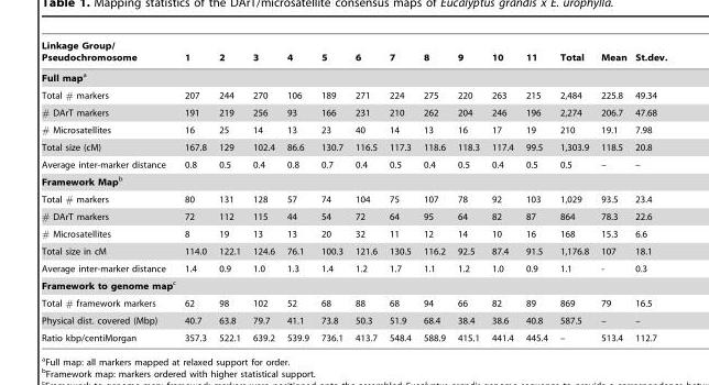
<table><thead><tr><td>Linkage Group/ Pseudochromosome</td><td>1</td><td>2</td><td>3</td><td>4</td><td>5</td><td>6</td><td>7</td><td>8</td><td>9</td><td>10</td><td>11</td><td>Total</td><td>Mean</td><td>St.dev.</td></tr></thead><tbody><tr><td colspan="15">Full mapa</td></tr><tr><td>Total # markers</td><td>207</td><td>244</td><td>270</td><td>106</td><td>189</td><td>271</td><td>224</td><td>275</td><td>220</td><td>263</td><td>215</td><td>2,484</td><td>225.8</td><td>49.34</td></tr><tr><td># DArT markers</td><td>191</td><td>219</td><td>256</td><td>93</td><td>166</td><td>231</td><td>210</td><td>262</td><td>204</td><td>246</td><td>196</td><td>2,274</td><td>206.7</td><td>47.68</td></tr><tr><td># Microsatellites</td><td>16</td><td>25</td><td>14</td><td>13</td><td>23</td><td>40</td><td>14</td><td>13</td><td>16</td><td>17</td><td>19</td><td>210</td><td>19.1</td><td>7.98</td></tr><tr><td>Total size (cM)</td><td>167.8</td><td>129</td><td>102.4</td><td>86.6</td><td>130.7</td><td>116.5</td><td>117.3</td><td>118.6</td><td>118.3</td><td>117.4</td><td>99.5</td><td>1,303.9</td><td>118.5</td><td>20.8</td></tr><tr><td>Average inter-marker distance</td><td>0.8</td><td>0.5</td><td>0.4</td><td>0.8</td><td>0.7</td><td>0.4</td><td>0.5</td><td>0.4</td><td>0.5</td><td>0.4</td><td>0.5</td><td>0.5</td><td>–</td><td>–</td></tr><tr><td colspan="15">Framework Mapb</td></tr><tr><td>Total # markers</td><td>80</td><td>131</td><td>128</td><td>57</td><td>74</td><td>104</td><td>75</td><td>107</td><td>78</td><td>92</td><td>103</td><td>1,029</td><td>93.5</td><td>23.4</td></tr><tr><td># DArT markers</td><td>72</td><td>112</td><td>115</td><td>44</td><td>54</td><td>72</td><td>64</td><td>95</td><td>64</td><td>82</td><td>87</td><td>864</td><td>78.3</td><td>22.6</td></tr><tr><td># Microsatellites</td><td>8</td><td>19</td><td>13</td><td>13</td><td>20</td><td>32</td><td>11</td><td>12</td><td>14</td><td>10</td><td>16</td><td>168</td><td>15.3</td><td>6.6</td></tr><tr><td>Total size in cM</td><td>114.0</td><td>122.1</td><td>124.6</td><td>76.1</td><td>100.3</td><td>121.6</td><td>130.5</td><td>116.2</td><td>92.5</td><td>87.4</td><td>91.5</td><td>1,176.8</td><td>107</td><td>18.1</td></tr><tr><td>Average inter-marker distance</td><td>1.4</td><td>0.9</td><td>1.0</td><td>1.3</td><td>1.4</td><td>1.2</td><td>1.7</td><td>1.1</td><td>1.2</td><td>1.0</td><td>0.9</td><td>1.1</td><td>-</td><td>0.3</td></tr><tr><td colspan="15">Framework to genome mapc</td></tr><tr><td>Total # framework markers</td><td>62</td><td>98</td><td>102</td><td>52</td><td>68</td><td>88</td><td>68</td><td>94</td><td>66</td><td>82</td><td>89</td><td>869</td><td>79</td><td>16.5</td></tr><tr><td>Physical dist. covered (Mbp)</td><td>40.7</td><td>63.8</td><td>79.7</td><td>41.1</td><td>73.8</td><td>50.3</td><td>51.9</td><td>68.4</td><td>38.4</td><td>38.6</td><td>40.8</td><td>587.5</td><td>–</td><td>–</td></tr><tr><td>Ratio kbp/centiMorgan</td><td>357.3</td><td>522.1</td><td>639.2</td><td>539.9</td><td>736.1</td><td>413.7</td><td>548.4</td><td>588.9</td><td>415.1</td><td>441.4</td><td>445.4</td><td>–</td><td>513.4</td><td>112.7</td></tr></tbody></table>